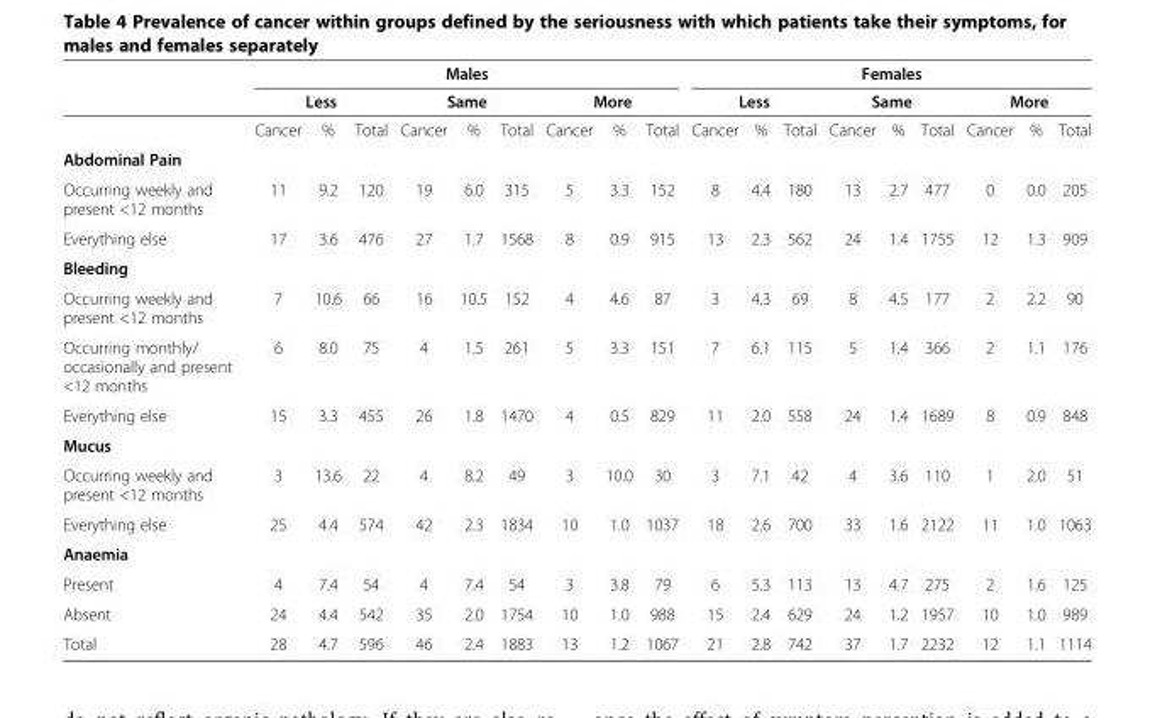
<table><thead><tr><td rowspan="3"></td><td colspan="9">Males</td><td colspan="9">Females</td></tr><tr><td colspan="3">Less</td><td colspan="3">Same</td><td colspan="3">More</td><td colspan="3">Less</td><td colspan="3">Same</td><td colspan="3">More</td></tr><tr><td>Cancer</td><td>%</td><td>Total</td><td>Cancer</td><td>%</td><td>Total</td><td>Cancer</td><td>%</td><td>Total</td><td>Cancer</td><td>%</td><td>Total</td><td>Cancer</td><td>%</td><td>Total</td><td>Cancer</td><td>%</td><td>Total</td></tr></thead><tbody><tr><td colspan="19">Abdominal Pain</td></tr><tr><td>Occurring weekly and present &lt;12 months</td><td>11</td><td>9.2</td><td>120</td><td>19</td><td>6.0</td><td>315</td><td>5</td><td>3.3</td><td>152</td><td>8</td><td>4.4</td><td>180</td><td>13</td><td>2.7</td><td>477</td><td>0</td><td>0.0</td><td>205</td></tr><tr><td>Everything else</td><td>17</td><td>3.6</td><td>476</td><td>27</td><td>1.7</td><td>1568</td><td>8</td><td>0.9</td><td>915</td><td>13</td><td>2.3</td><td>562</td><td>24</td><td>1.4</td><td>1755</td><td>12</td><td>1.3</td><td>909</td></tr><tr><td colspan="19">Bleeding</td></tr><tr><td>Occurring weekly and present &lt;12 months</td><td>7</td><td>10.6</td><td>66</td><td>16</td><td>10.5</td><td>152</td><td>4</td><td>4.6</td><td>87</td><td>3</td><td>4.3</td><td>69</td><td>8</td><td>4.5</td><td>177</td><td>2</td><td>2.2</td><td>90</td></tr><tr><td>Occurring monthly/ occasionally and present &lt;12 months</td><td>6</td><td>8.0</td><td>75</td><td>4</td><td>1.5</td><td>261</td><td>5</td><td>3.3</td><td>151</td><td>7</td><td>6.1</td><td>115</td><td>5</td><td>1.4</td><td>366</td><td>2</td><td>1.1</td><td>176</td></tr><tr><td>Everything else</td><td>15</td><td>3.3</td><td>455</td><td>26</td><td>1.8</td><td>1470</td><td>4</td><td>0.5</td><td>829</td><td>11</td><td>2.0</td><td>558</td><td>24</td><td>1.4</td><td>1689</td><td>8</td><td>0.9</td><td>848</td></tr><tr><td colspan="19">Mucus</td></tr><tr><td>Occurring weekly and present &lt;12 months</td><td>3</td><td>13.6</td><td>22</td><td>4</td><td>8.2</td><td>49</td><td>3</td><td>10.0</td><td>30</td><td>3</td><td>7.1</td><td>42</td><td>4</td><td>3.6</td><td>110</td><td>1</td><td>2.0</td><td>51</td></tr><tr><td>Everything else</td><td>25</td><td>4.4</td><td>574</td><td>42</td><td>2.3</td><td>1834</td><td>10</td><td>1.0</td><td>1037</td><td>18</td><td>2.6</td><td>700</td><td>33</td><td>1.6</td><td>2122</td><td>11</td><td>1.0</td><td>1063</td></tr><tr><td colspan="19">Anaemia</td></tr><tr><td>Present</td><td>4</td><td>7.4</td><td>54</td><td>4</td><td>7.4</td><td>54</td><td>3</td><td>3.8</td><td>79</td><td>6</td><td>5.3</td><td>113</td><td>13</td><td>4.7</td><td>275</td><td>2</td><td>1.6</td><td>125</td></tr><tr><td>Absent</td><td>24</td><td>4.4</td><td>542</td><td>35</td><td>2.0</td><td>1754</td><td>10</td><td>1.0</td><td>988</td><td>15</td><td>2.4</td><td>629</td><td>24</td><td>1.2</td><td>1957</td><td>10</td><td>1.0</td><td>989</td></tr><tr><td>Total</td><td>28</td><td>4.7</td><td>596</td><td>46</td><td>2.4</td><td>1883</td><td>13</td><td>1.2</td><td>1067</td><td>21</td><td>2.8</td><td>742</td><td>37</td><td>1.7</td><td>2232</td><td>12</td><td>1.1</td><td>1114</td></tr></tbody></table>